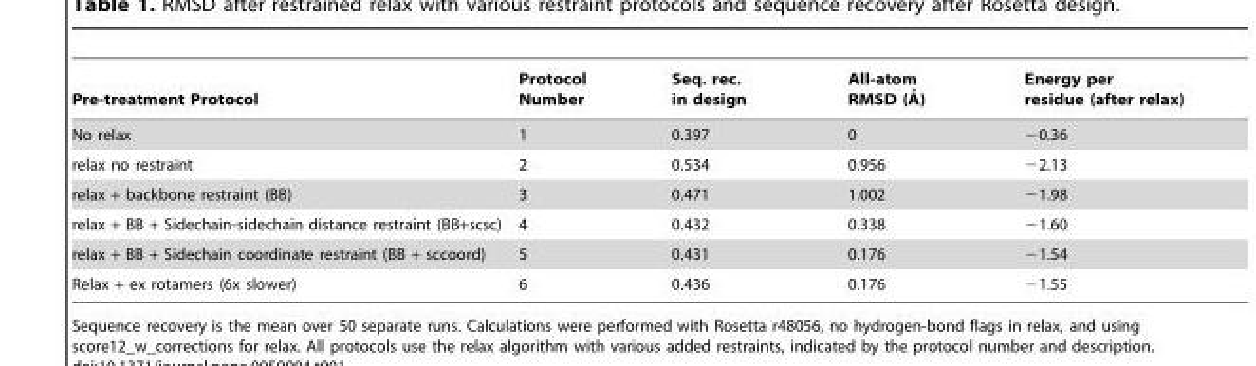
<table><thead><tr><td>Pre-treatment Protocol</td><td>Protocol Number</td><td>Seq. rec. in design</td><td>All-atom RMSD (A˚ )</td><td>Energy per residue (after relax)</td></tr></thead><tbody><tr><td>No relax</td><td>1</td><td>0.397</td><td>0</td><td>−0.36</td></tr><tr><td>relax no restraint</td><td>2</td><td>0.534</td><td>0.956</td><td>−2.13</td></tr><tr><td>relax + backbone restraint (BB)</td><td>3</td><td>0.471</td><td>1.002</td><td>−1.98</td></tr><tr><td>relax + BB + Sidechain-sidechain distance restraint (BB+scsc)</td><td>4</td><td>0.432</td><td>0.338</td><td>−1.60</td></tr><tr><td>relax + BB + Sidechain coordinate restraint (BB + sccoord)</td><td>5</td><td>0.431</td><td>0.176</td><td>−1.54</td></tr><tr><td>Relax + ex rotamers (6x slower)</td><td>6</td><td>0.436</td><td>0.176</td><td>−1.55</td></tr></tbody></table>